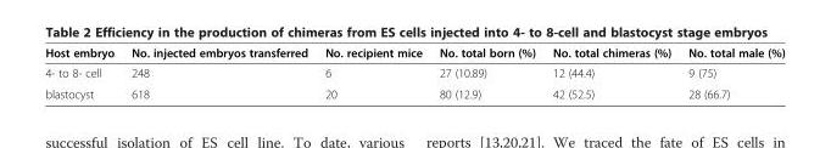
<table><thead><tr><td>Host embryo</td><td>No. injected embryos transferred</td><td>No. recipient mice</td><td>No. total born (%)</td><td>No. total chimeras (%)</td><td>No. total male (%)</td></tr></thead><tbody><tr><td>4- to 8- cell</td><td>248</td><td>6</td><td>27 (10.89)</td><td>12 (44.4)</td><td>9 (75)</td></tr><tr><td>blastocyst</td><td>618</td><td>20</td><td>80 (12.9)</td><td>42 (52.5)</td><td>28 (66.7)</td></tr></tbody></table>